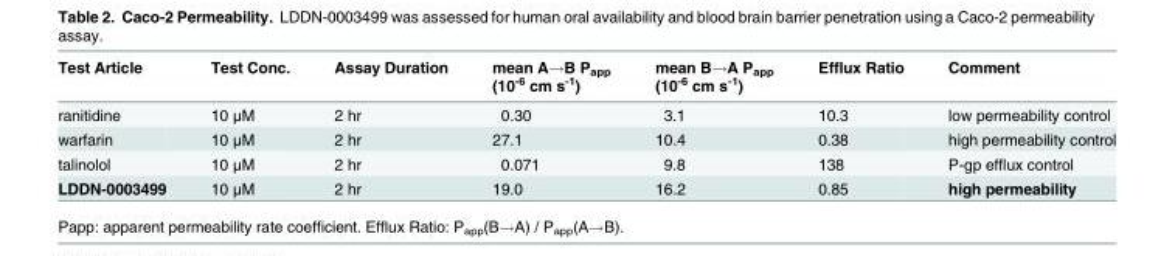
<table><thead><tr><td>Test Article</td><td>Test Conc.</td><td>Assay Duration</td><td>mean A→B P<sub>app</sub> (10<sup>-6</sup> cm s<sup>-1</sup>)</td><td>mean B→A P<sub>app</sub> (10<sup>-6</sup> cm s<sup>-1</sup>)</td><td>Efflux Ratio</td><td>Comment</td></tr></thead><tbody><tr><td>ranitidine</td><td>10 μM</td><td>2 hr</td><td>0.30</td><td>3.1</td><td>10.3</td><td>low permeability control</td></tr><tr><td>warfarin</td><td>10 μM</td><td>2 hr</td><td>27.1</td><td>10.4</td><td>0.38</td><td>high permeability control</td></tr><tr><td>talinolol</td><td>10 μM</td><td>2 hr</td><td>0.071</td><td>9.8</td><td>138</td><td>P-gp efflux control</td></tr><tr><td>LDDN-0003499</td><td>10 μM</td><td>2 hr</td><td>19.0</td><td>16.2</td><td>0.85</td><td>high permeability</td></tr></tbody></table>